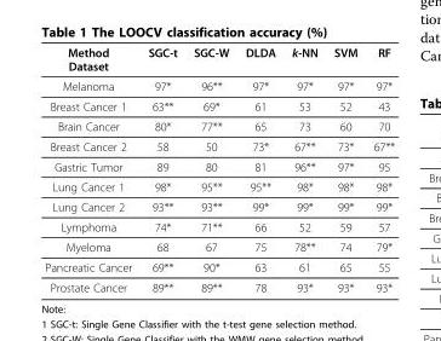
<table><thead><tr><td>Method Dataset</td><td>SGC-t</td><td>SGC-W</td><td>DLDA</td><td>k-NN</td><td>SVM</td><td>RF</td></tr></thead><tbody><tr><td>Melanoma</td><td>97*</td><td>96**</td><td>97*</td><td>97*</td><td>97*</td><td>97*</td></tr><tr><td>Breast Cancer 1</td><td>63**</td><td>69*</td><td>61</td><td>53</td><td>52</td><td>43</td></tr><tr><td>Brain Cancer</td><td>80*</td><td>77**</td><td>65</td><td>73</td><td>60</td><td>70</td></tr><tr><td>Breast Cancer 2</td><td>58</td><td>50</td><td>73*</td><td>67**</td><td>73*</td><td>67**</td></tr><tr><td>Gastric Tumor</td><td>89</td><td>80</td><td>81</td><td>96**</td><td>97*</td><td>95</td></tr><tr><td>Lung Cancer 1</td><td>98*</td><td>95**</td><td>95**</td><td>98*</td><td>98*</td><td>98*</td></tr><tr><td>Lung Cancer 2</td><td>93**</td><td>93**</td><td>99*</td><td>99*</td><td>99*</td><td>99*</td></tr><tr><td>Lymphoma</td><td>74*</td><td>71**</td><td>66</td><td>52</td><td>59</td><td>57</td></tr><tr><td>Myeloma</td><td>68</td><td>67</td><td>75</td><td>78**</td><td>74</td><td>79*</td></tr><tr><td>Pancreatic Cancer</td><td>69**</td><td>90*</td><td>63</td><td>61</td><td>65</td><td>55</td></tr><tr><td>Prostate Cancer</td><td>89**</td><td>89**</td><td>78</td><td>93*</td><td>93*</td><td>93*</td></tr></tbody></table>